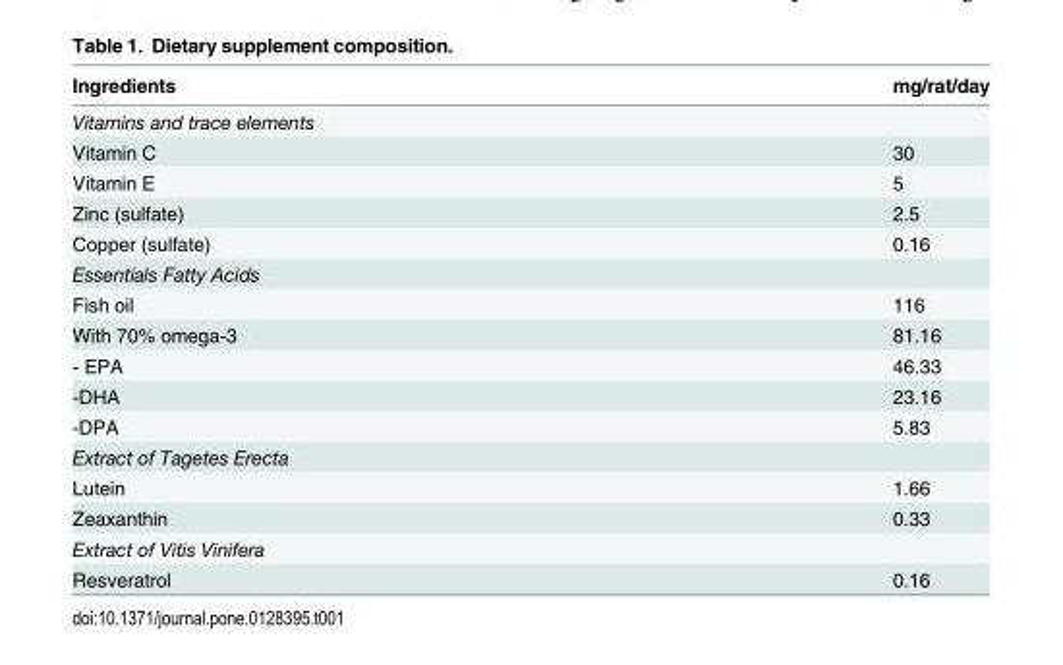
<table><thead><tr><td>Ingredients</td><td>mg/rat/day</td></tr></thead><tbody><tr><td colspan="2">Vitamins and trace elements</td></tr><tr><td>Vitamin C</td><td>30</td></tr><tr><td>Vitamin E</td><td>5</td></tr><tr><td>Zinc (sulfate)</td><td>2.5</td></tr><tr><td>Copper (sulfate)</td><td>0.16</td></tr><tr><td colspan="2">Essentials Fatty Acids</td></tr><tr><td>Fish oil</td><td>116</td></tr><tr><td>With 70% omega-3</td><td>81.16</td></tr><tr><td>- EPA</td><td>46.33</td></tr><tr><td>-DHA</td><td>23.16</td></tr><tr><td>-DPA</td><td>5.83</td></tr><tr><td colspan="2">Extract of Tagetes Erecta</td></tr><tr><td>Lutein</td><td>1.66</td></tr><tr><td>Zeaxanthin</td><td>0.33</td></tr><tr><td colspan="2">Extract of Vitis Vinifera</td></tr><tr><td>Resveratrol</td><td>0.16</td></tr></tbody></table>